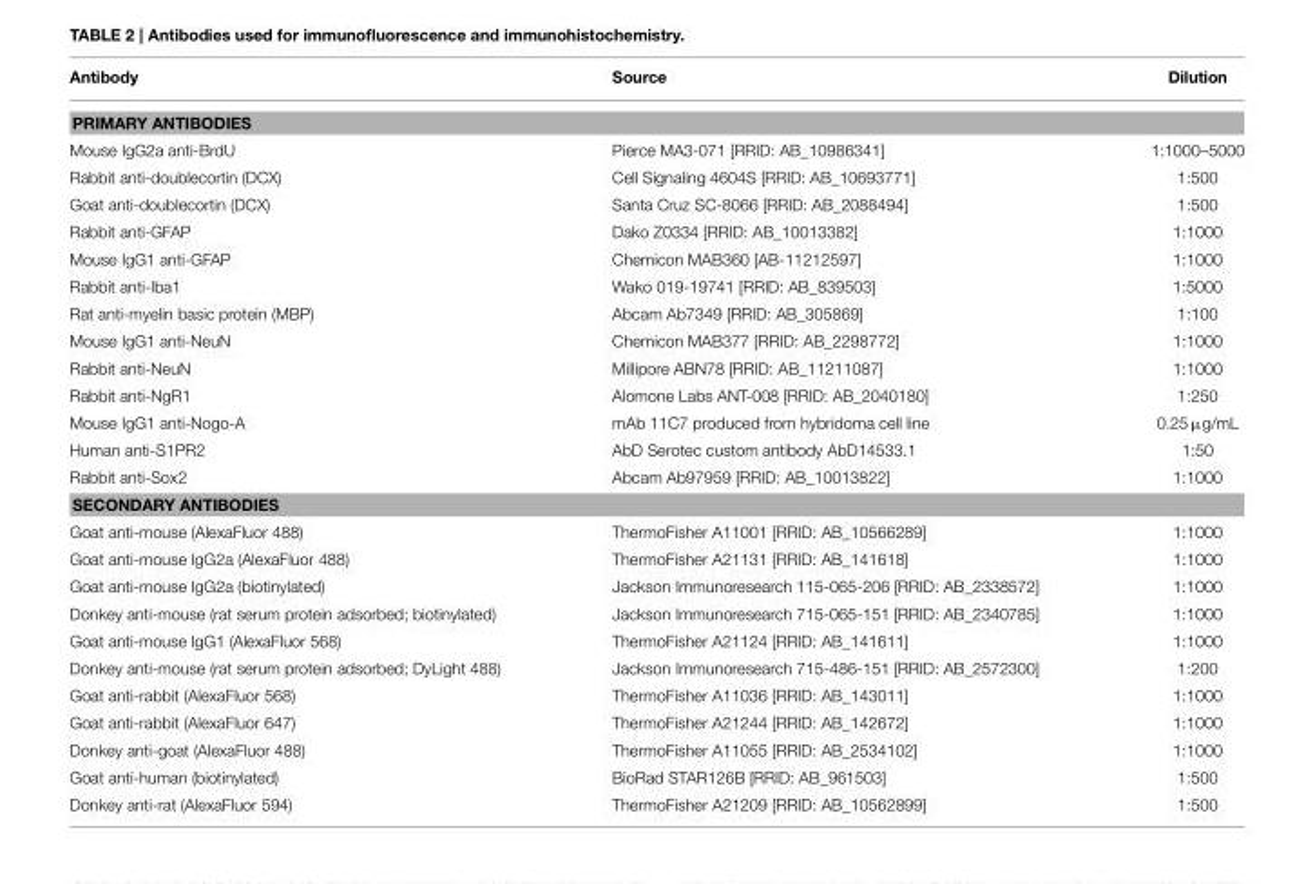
<table><thead><tr><td>Antibody</td><td>Source</td><td>Dilution</td></tr></thead><tbody><tr><td colspan="3">PRIMARY ANTIBODIES</td></tr><tr><td>Mouse IgG2a anti-BrdU</td><td>Pierce MA3-071 [RRID: AB_10986341]</td><td>1:1000–5000</td></tr><tr><td>Rabbit anti-doublecortin (DCX)</td><td>Cell Signaling 4604S [RRID: AB_10693771]</td><td>1:500</td></tr><tr><td>Goat anti-doublecortin (DCX)</td><td>Santa Cruz SC-8066 [RRID: AB_2088494]</td><td>1:500</td></tr><tr><td>Rabbit anti-GFAP</td><td>Dako Z0334 [RRID: AB_10013382]</td><td>1:1000</td></tr><tr><td>Mouse IgG1 anti-GFAP</td><td>Chemicon MAB360 [AB-11212597]</td><td>1:1000</td></tr><tr><td>Rabbit anti-Iba1</td><td>Wako 019-19741 [RRID: AB_839503]</td><td>1:5000</td></tr><tr><td>Rat anti-myelin basic protein (MBP)</td><td>Abcam Ab7349 [RRID: AB_305869]</td><td>1:100</td></tr><tr><td>Mouse IgG1 anti-NeuN</td><td>Chemicon MAB377 [RRID: AB_2298772]</td><td>1:1000</td></tr><tr><td>Rabbit anti-NeuN</td><td>Millipore ABN78 [RRID: AB_11211087]</td><td>1:1000</td></tr><tr><td>Rabbit anti-NgR1</td><td>Alomone Labs ANT-008 [RRID: AB_2040180]</td><td>1:250</td></tr><tr><td>Mouse IgG1 anti-Nogo-A</td><td>mAb 11C7 produced from hybridoma cell line</td><td>0.25 µg/mL</td></tr><tr><td>Human anti-S1PR2</td><td>AbD Serotec custom antibody AbD14533.1</td><td>1:50</td></tr><tr><td>Rabbit anti-Sox2</td><td>Abcam Ab97959 [RRID: AB_10013822]</td><td>1:1000</td></tr><tr><td colspan="3">SECONDARY ANTIBODIES</td></tr><tr><td>Goat anti-mouse (AlexaFluor 488)</td><td>ThermoFisher A11001 [RRID: AB_10566289]</td><td>1:1000</td></tr><tr><td>Goat anti-mouse IgG2a (AlexaFluor 488)</td><td>ThermoFisher A21131 [RRID: AB_141618]</td><td>1:1000</td></tr><tr><td>Goat anti-mouse IgG2a (biotinylated)</td><td>Jackson Immunoresearch 115-065-206 [RRID: AB_2338572]</td><td>1:1000</td></tr><tr><td>Donkey anti-mouse (rat serum protein adsorbed; biotinylated)</td><td>Jackson Immunoresearch 715-065-151 [RRID: AB_2340785]</td><td>1:1000</td></tr><tr><td>Goat anti-mouse IgG1 (AlexaFluor 568)</td><td>ThermoFisher A21124 [RRID: AB_141611]</td><td>1:1000</td></tr><tr><td>Donkey anti-mouse (rat serum protein adsorbed; DyLight 488)</td><td>Jackson Immunoresearch 715-486-151 [RRID: AB_2572300]</td><td>1:200</td></tr><tr><td>Goat anti-rabbit (AlexaFluor 568)</td><td>ThermoFisher A11036 [RRID: AB_143011]</td><td>1:1000</td></tr><tr><td>Goat anti-rabbit (AlexaFluor 647)</td><td>ThermoFisher A21244 [RRID: AB_142672]</td><td>1:1000</td></tr><tr><td>Donkey anti-goat (AlexaFluor 488)</td><td>ThermoFisher A11055 [RRID: AB_2534102]</td><td>1:1000</td></tr><tr><td>Goat anti-human (biotinylated)</td><td>BioRad STAR126B [RRID: AB_961503]</td><td>1:500</td></tr><tr><td>Donkey anti-rat (AlexaFluor 594)</td><td>ThermoFisher A21209 [RRID: AB_10562899]</td><td>1:500</td></tr></tbody></table>